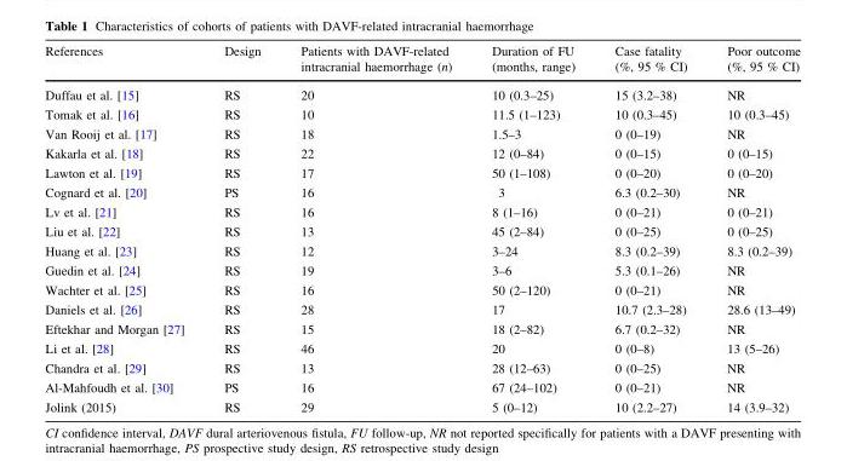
<table><thead><tr><td>References</td><td>Design</td><td>Patients with DAVF-related intracranial haemorrhage (n)</td><td>Duration of FU (months, range)</td><td>Case fatality (%, 95 % CI)</td><td>Poor outcome (%, 95 % CI)</td></tr></thead><tbody><tr><td>Duffau et al. [15]</td><td>RS</td><td>20</td><td>10 (0.3–25)</td><td>15 (3.2–38)</td><td>NR</td></tr><tr><td>Tomak et al. [16]</td><td>RS</td><td>10</td><td>11.5 (1–123)</td><td>10 (0.3–45)</td><td>10 (0.3–45)</td></tr><tr><td>Van Rooij et al. [17]</td><td>RS</td><td>18</td><td>1.5–3</td><td>0 (0–19)</td><td>NR</td></tr><tr><td>Kakarla et al. [18]</td><td>RS</td><td>22</td><td>12 (0–84)</td><td>0 (0–15)</td><td>0 (0–15)</td></tr><tr><td>Lawton et al. [19]</td><td>RS</td><td>17</td><td>50 (1–108)</td><td>0 (0–20)</td><td>0 (0–20)</td></tr><tr><td>Cognard et al. [20]</td><td>PS</td><td>16</td><td>3</td><td>6.3 (0.2–30)</td><td>NR</td></tr><tr><td>Lv et al. [21]</td><td>RS</td><td>16</td><td>8 (1–16)</td><td>0 (0–21)</td><td>0 (0–21)</td></tr><tr><td>Liu et al. [22]</td><td>RS</td><td>13</td><td>45 (2–84)</td><td>0 (0–25)</td><td>0 (0–25)</td></tr><tr><td>Huang et al. [23]</td><td>RS</td><td>12</td><td>3–24</td><td>8.3 (0.2–39)</td><td>8.3 (0.2–39)</td></tr><tr><td>Guedin et al. [24]</td><td>RS</td><td>19</td><td>3–6</td><td>5.3 (0.1–26)</td><td>NR</td></tr><tr><td>Wachter et al. [25]</td><td>RS</td><td>16</td><td>50 (2–120)</td><td>0 (0–21)</td><td>NR</td></tr><tr><td>Daniels et al. [26]</td><td>RS</td><td>28</td><td>17</td><td>10.7 (2.3–28)</td><td>28.6 (13–49)</td></tr><tr><td>Eftekhar and Morgan [27]</td><td>RS</td><td>15</td><td>18 (2–82)</td><td>6.7 (0.2–32)</td><td>NR</td></tr><tr><td>Li et al. [28]</td><td>RS</td><td>46</td><td>20</td><td>0 (0–8)</td><td>13 (5–26)</td></tr><tr><td>Chandra et al. [29]</td><td>RS</td><td>13</td><td>28 (12–63)</td><td>0 (0–25)</td><td>NR</td></tr><tr><td>Al-Mahfoudh et al. [30]</td><td>PS</td><td>16</td><td>67 (24–102)</td><td>0 (0–21)</td><td>NR</td></tr><tr><td>Jolink (2015)</td><td>RS</td><td>29</td><td>5 (0–12)</td><td>10 (2.2–27)</td><td>14 (3.9–32)</td></tr></tbody></table>